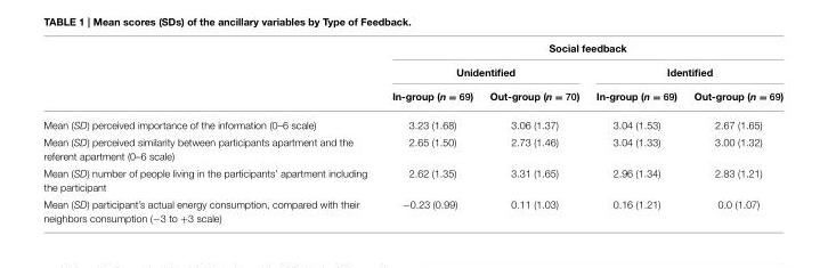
<table><thead><tr><td rowspan="3"></td><td colspan="4">Social feedback</td></tr><tr><td colspan="2">Unidentified</td><td colspan="2">Identified</td></tr><tr><td>In-group (n = 69)</td><td>Out-group (n = 70)</td><td>In-group (n = 69)</td><td>Out-group (n = 69)</td></tr></thead><tbody><tr><td>Mean (SD) perceived importance of the information (0–6 scale)</td><td>3.23 (1.68)</td><td>3.06 (1.37)</td><td>3.04 (1.53)</td><td>2.67 (1.65)</td></tr><tr><td>Mean (SD) perceived similarity between participants apartment and the referent apartment (0–6 scale)</td><td>2.65 (1.50)</td><td>2.73 (1.46)</td><td>3.04 (1.33)</td><td>3.00 (1.32)</td></tr><tr><td>Mean (SD) number of people living in the participants’ apartment including the participant</td><td>2.62 (1.35)</td><td>3.31 (1.65)</td><td>2.96 (1.34)</td><td>2.83 (1.21)</td></tr><tr><td>Mean (SD) participant’s actual energy consumption, compared with their neighbors consumption (−3 to +3 scale)</td><td>−0.23 (0.99)</td><td>0.11 (1.03)</td><td>0.16 (1.21)</td><td>0.0 (1.07)</td></tr></tbody></table>